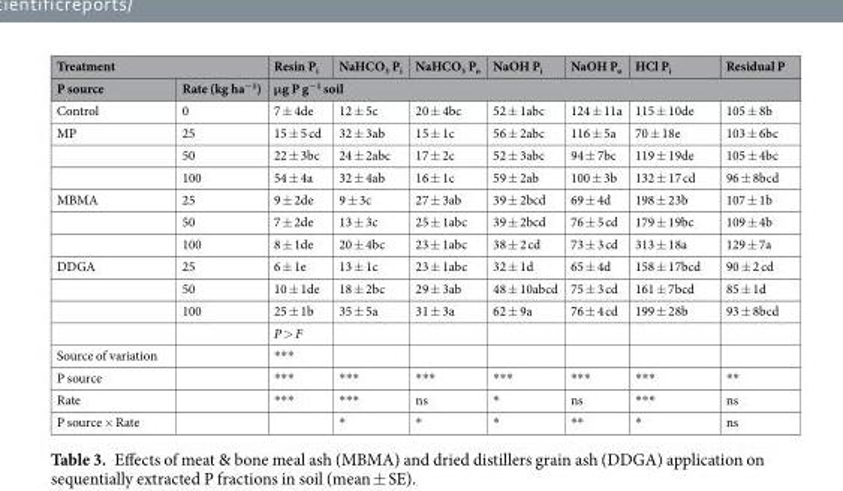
<table><thead><tr><td colspan="2">Treatment</td><td>Resin P<sub>i</sub></td><td>NaHCO<sub>3</sub> P<sub>i</sub></td><td>NaHCO<sub>3</sub> P<sub>o</sub></td><td>NaOH P<sub>i</sub></td><td>NaOH P<sub>o</sub></td><td>HCl P<sub>i</sub></td><td>Residual P</td></tr><tr><td>P source</td><td>Rate (kg ha<sup>−1</sup>)</td><td colspan="7">μg P g<sup>−1</sup> soil</td></tr></thead><tbody><tr><td>Control</td><td>0</td><td>7 ± 4de</td><td>12 ± 5c</td><td>20 ± 4bc</td><td>52 ± 1abc</td><td>124 ± 11a</td><td>115 ± 10de</td><td>105 ± 8b</td></tr><tr><td rowspan="3">MP</td><td>25</td><td>15 ± 5 cd</td><td>32 ± 3ab</td><td>15 ± 1c</td><td>56 ± 2abc</td><td>116 ± 5a</td><td>70 ± 18e</td><td>103 ± 6bc</td></tr><tr><td>50</td><td>22 ± 3bc</td><td>24 ± 2abc</td><td>17 ± 2c</td><td>52 ± 3abc</td><td>94 ± 7bc</td><td>119 ± 19de</td><td>105 ± 4bc</td></tr><tr><td>100</td><td>54 ± 4a</td><td>32 ± 4ab</td><td>16 ± 1c</td><td>59 ± 2ab</td><td>100 ± 3b</td><td>132 ± 17 cd</td><td>96 ± 8bcd</td></tr><tr><td rowspan="3">MBMA</td><td>25</td><td>9 ± 2de</td><td>9 ± 3c</td><td>27 ± 3ab</td><td>39 ± 2bcd</td><td>69 ± 4d</td><td>198 ± 23b</td><td>107 ± 1b</td></tr><tr><td>50</td><td>7 ± 2de</td><td>13 ± 3c</td><td>25 ± 1abc</td><td>39 ± 2bcd</td><td>76 ± 5 cd</td><td>179 ± 19bc</td><td>109 ± 4b</td></tr><tr><td>100</td><td>8 ± 1de</td><td>20 ± 4bc</td><td>23 ± 1abc</td><td>38 ± 2 cd</td><td>73 ± 3 cd</td><td>313 ± 18a</td><td>129 ± 7a</td></tr><tr><td rowspan="4">DDGA</td><td>25</td><td>6 ± 1e</td><td>13 ± 1c</td><td>23 ± 1abc</td><td>32 ± 1d</td><td>65 ± 4d</td><td>158 ± 17bcd</td><td>90 ± 2 cd</td></tr><tr><td>50</td><td>10 ± 1de</td><td>18 ± 2bc</td><td>29 ± 3ab</td><td>48 ± 10abcd</td><td>75 ± 3 cd</td><td>161 ± 7bcd</td><td>85 ± 1d</td></tr><tr><td>100</td><td>25 ± 1b</td><td>35 ± 5a</td><td>31 ± 3a</td><td>62 ± 9a</td><td>76 ± 4 cd</td><td>199 ± 28b</td><td>93 ± 8bcd</td></tr><tr><td></td><td>P &gt; F</td><td></td><td></td><td></td><td></td><td></td><td></td></tr><tr><td>Source of variation</td><td></td><td>***</td><td></td><td></td><td></td><td></td><td></td><td></td></tr><tr><td>P source</td><td></td><td>***</td><td>***</td><td>***</td><td>***</td><td>***</td><td>***</td><td>**</td></tr><tr><td>Rate</td><td></td><td>***</td><td>***</td><td>ns</td><td>*</td><td>ns</td><td>***</td><td>ns</td></tr><tr><td>P source × Rate</td><td></td><td></td><td>*</td><td>*</td><td>*</td><td>**</td><td>*</td><td>ns</td></tr></tbody></table>